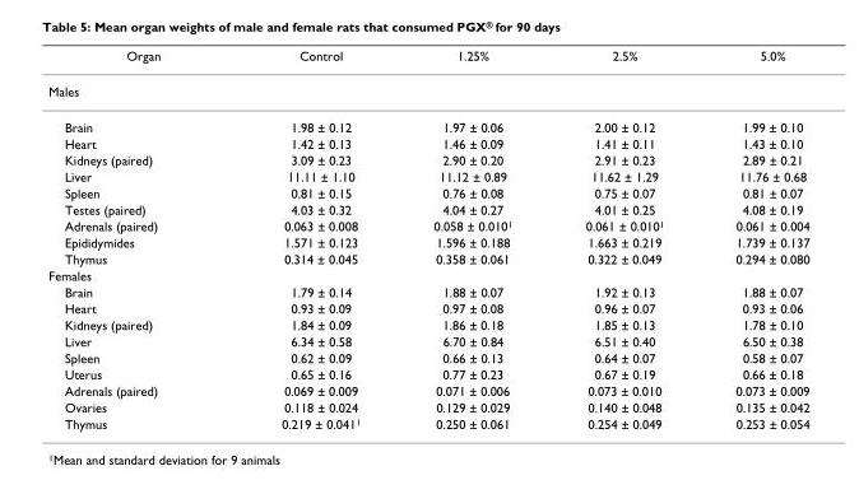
<table><thead><tr><td>Organ</td><td>Control</td><td>1.25%</td><td>2.5%</td><td>5.0%</td></tr></thead><tbody><tr><td colspan="5">Males</td></tr><tr><td>Brain</td><td>1.98 ± 0.12</td><td>1.97 ± 0.06</td><td>2.00 ± 0.12</td><td>1.99 ± 0.10</td></tr><tr><td>Heart</td><td>1.42 ± 0.13</td><td>1.46 ± 0.09</td><td>1.41 ± 0.11</td><td>1.43 ± 0.10</td></tr><tr><td>Kidneys (paired)</td><td>3.09 ± 0.23</td><td>2.90 ± 0.20</td><td>2.91 ± 0.23</td><td>2.89 ± 0.21</td></tr><tr><td>Liver</td><td>11.11 ± 1.10</td><td>11.12 ± 0.89</td><td>11.62 ± 1.29</td><td>11.76 ± 0.68</td></tr><tr><td>Spleen</td><td>0.81 ± 0.15</td><td>0.76 ± 0.08</td><td>0.75 ± 0.07</td><td>0.81 ± 0.07</td></tr><tr><td>Testes (paired)</td><td>4.03 ± 0.32</td><td>4.04 ± 0.27</td><td>4.01 ± 0.25</td><td>4.08 ± 0.19</td></tr><tr><td>Adrenals (paired)</td><td>0.063 ± 0.008</td><td>0.058 ± 0.010<sup>1</sup></td><td>0.061 ± 0.010<sup>1</sup></td><td>0.061 ± 0.004</td></tr><tr><td>Epididymides</td><td>1.571 ± 0.123</td><td>1.596 ± 0.188</td><td>1.663 ± 0.219</td><td>1.739 ± 0.137</td></tr><tr><td>Thymus</td><td>0.314 ± 0.045</td><td>0.358 ± 0.061</td><td>0.322 ± 0.049</td><td>0.294 ± 0.080</td></tr><tr><td colspan="5">Females</td></tr><tr><td>Brain</td><td>1.79 ± 0.14</td><td>1.88 ± 0.07</td><td>1.92 ± 0.13</td><td>1.88 ± 0.07</td></tr><tr><td>Heart</td><td>0.93 ± 0.09</td><td>0.97 ± 0.08</td><td>0.96 ± 0.07</td><td>0.93 ± 0.06</td></tr><tr><td>Kidneys (paired)</td><td>1.84 ± 0.09</td><td>1.86 ± 0.18</td><td>1.85 ± 0.13</td><td>1.78 ± 0.10</td></tr><tr><td>Liver</td><td>6.34 ± 0.58</td><td>6.70 ± 0.84</td><td>6.51 ± 0.40</td><td>6.50 ± 0.38</td></tr><tr><td>Spleen</td><td>0.62 ± 0.09</td><td>0.66 ± 0.13</td><td>0.64 ± 0.07</td><td>0.58 ± 0.07</td></tr><tr><td>Uterus</td><td>0.65 ± 0.16</td><td>0.77 ± 0.23</td><td>0.67 ± 0.19</td><td>0.66 ± 0.18</td></tr><tr><td>Adrenals (paired)</td><td>0.069 ± 0.009</td><td>0.071 ± 0.006</td><td>0.073 ± 0.010</td><td>0.073 ± 0.009</td></tr><tr><td>Ovaries</td><td>0.118 ± 0.024</td><td>0.129 ± 0.029</td><td>0.140 ± 0.048</td><td>0.135 ± 0.042</td></tr><tr><td>Thymus</td><td>0.219 ± 0.041<sup>1</sup></td><td>0.250 ± 0.061</td><td>0.254 ± 0.049</td><td>0.253 ± 0.054</td></tr></tbody></table>